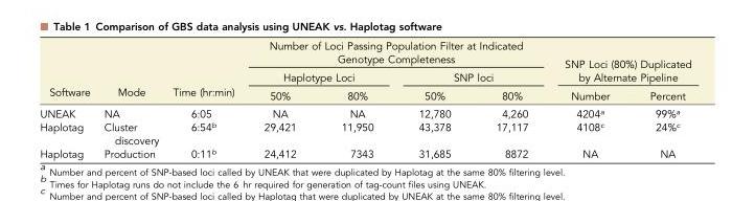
<table><thead><tr><td rowspan="3">Software</td><td rowspan="3">Mode</td><td rowspan="3">Time (hr:min)</td><td colspan="4">Number of Loci Passing Population Filter at Indicated Genotype Completeness</td><td rowspan="2" colspan="2">SNP Loci (80%) Duplicated by Alternate Pipeline</td></tr><tr><td colspan="2">Haplotype Loci</td><td colspan="2">SNP loci</td></tr><tr><td>50%</td><td>80%</td><td>50%</td><td>80%</td><td>Number</td><td>Percent</td></tr></thead><tbody><tr><td>UNEAK</td><td>NA</td><td>6:05</td><td>NA</td><td>NA</td><td>12,780</td><td>4,260</td><td>4204<sup>a</sup></td><td>99%<sup>a</sup></td></tr><tr><td>Haplotag</td><td>Cluster discovery</td><td>6:54<sup>b</sup></td><td>29,421</td><td>11,950</td><td>43,378</td><td>17,117</td><td>4108<sup>c</sup></td><td>24%<sup>c</sup></td></tr><tr><td>Haplotag</td><td>Production</td><td>0:11<sup>b</sup></td><td>24,412</td><td>7343</td><td>31,685</td><td>8872</td><td>NA</td><td>NA</td></tr></tbody></table>